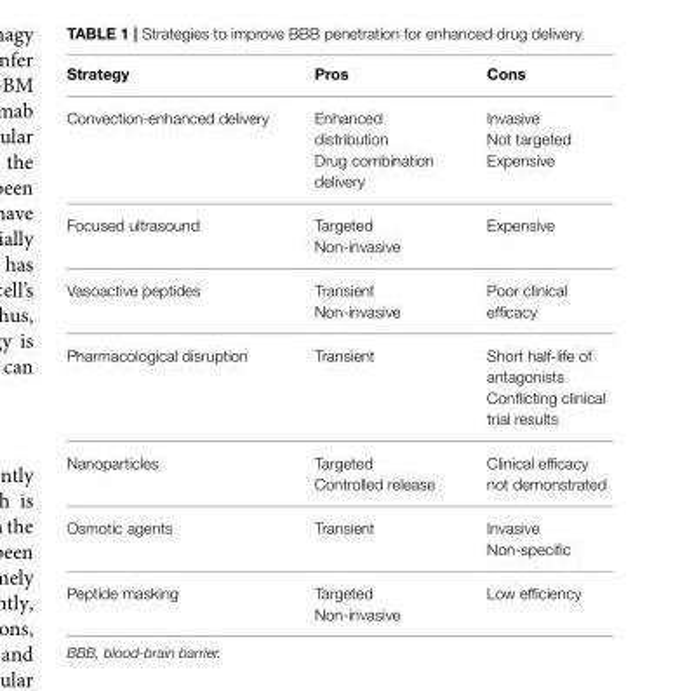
<table><thead><tr><td>Strategy</td><td>Pros</td><td>Cons</td></tr></thead><tbody><tr><td>Convection-enhanced delivery</td><td>Enhanced distribution Drug combination delivery</td><td>Invasive Not targeted Expensive</td></tr><tr><td>Focused ultrasound</td><td>Targeted Non-invasive</td><td>Expensive</td></tr><tr><td>Vasoactive peptides</td><td>Transient Non-invasive</td><td>Poor clinical efficacy</td></tr><tr><td>Pharmacological disruption</td><td>Transient</td><td>Short half-life of antagonists Conflicting clinical trial results</td></tr><tr><td>Nanoparticles</td><td>Targeted Controlled release</td><td>Clinical efficacy not demonstrated</td></tr><tr><td>Osmotic agents</td><td>Transient</td><td>Invasive Non-specific</td></tr><tr><td>Peptide masking</td><td>Targeted Non-invasive</td><td>Low efficiency</td></tr></tbody></table>